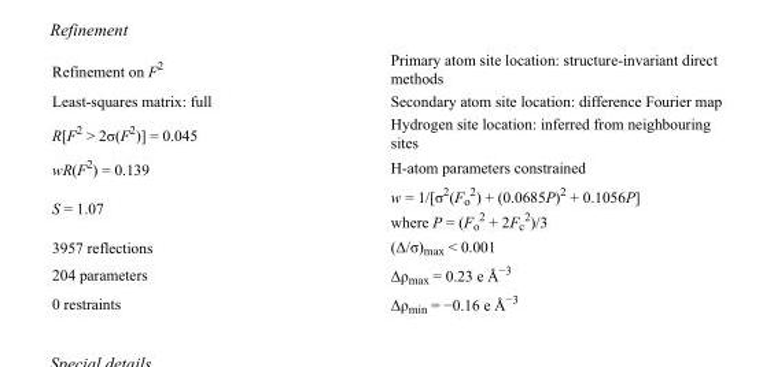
<table><tbody><tr><td>Refinement on F<sup>2</sup></td><td>Primary atom site location: structure-invariant direct methods</td></tr><tr><td>Least-squares matrix: full</td><td>Secondary atom site location: difference Fourier map</td></tr><tr><td>R[F<sup>2</sup> &gt; 2σ(F<sup>2</sup>)] = 0.045</td><td>Hydrogen site location: inferred from neighbouring sites</td></tr><tr><td>wR(F<sup>2</sup>) = 0.139</td><td>H-atom parameters constrained</td></tr><tr><td>S = 1.07</td><td>w = 1/[σ<sup>2</sup>(F<sub>o</sub> <sup>2</sup>) + (0.0685P)<sup>2</sup> + 0.1056P] where P = (F<sub>o</sub> <sup>2</sup> + 2F<sub>c</sub> <sup>2</sup>)/3</td></tr><tr><td>3957 reflections</td><td>(Δ/σ)<sub>max</sub> &lt; 0.001</td></tr><tr><td>204 parameters</td><td>Δρ<sub>max</sub> = 0.23 e Å<sup>−3</sup></td></tr><tr><td>0 restraints</td><td>Δρ<sub>min</sub> = −0.16 e Å<sup>−3</sup></td></tr></tbody></table>